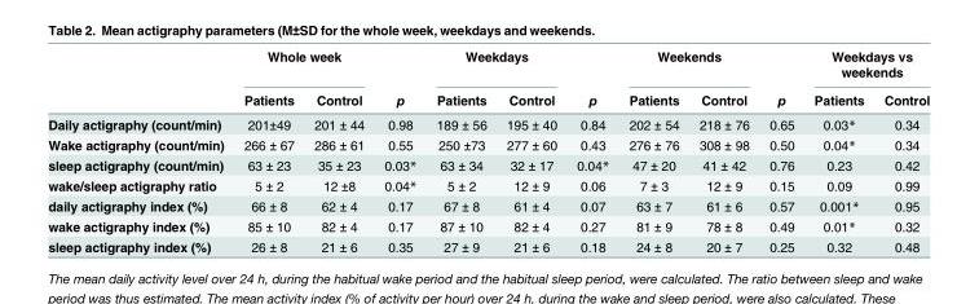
<table><thead><tr><td rowspan="2"></td><td colspan="2">Whole week</td><td rowspan="2">p</td><td colspan="2">Weekdays</td><td rowspan="2">p</td><td colspan="2">Weekends</td><td rowspan="2">p</td><td colspan="2">Weekdays vs weekends</td></tr><tr><td>Patients</td><td>Control</td><td>Patients</td><td>Control</td><td>Patients</td><td>Control</td><td>Patients</td><td>Control</td></tr></thead><tbody><tr><td>Daily actigraphy (count/min)</td><td>201±49</td><td>201 ± 44</td><td>0.98</td><td>189 ± 56</td><td>195 ± 40</td><td>0.84</td><td>202 ± 54</td><td>218 ± 76</td><td>0.65</td><td>0.03*</td><td>0.34</td></tr><tr><td>Wake actigraphy (count/min)</td><td>266 ± 67</td><td>286 ± 61</td><td>0.55</td><td>250 ±73</td><td>277 ± 60</td><td>0.43</td><td>276 ± 76</td><td>308 ± 98</td><td>0.50</td><td>0.04*</td><td>0.34</td></tr><tr><td>sleep actigraphy (count/min)</td><td>63 ± 23</td><td>35 ± 23</td><td>0.03*</td><td>63 ± 34</td><td>32 ± 17</td><td>0.04*</td><td>47 ± 20</td><td>41 ± 42</td><td>0.76</td><td>0.23</td><td>0.42</td></tr><tr><td>wake/sleep actigraphy ratio</td><td>5 ± 2</td><td>12 ±8</td><td>0.04*</td><td>5 ± 2</td><td>12 ± 9</td><td>0.06</td><td>7 ± 3</td><td>12 ± 9</td><td>0.15</td><td>0.09</td><td>0.99</td></tr><tr><td>daily actigraphy index (%)</td><td>66 ± 8</td><td>62 ± 4</td><td>0.17</td><td>67 ± 8</td><td>61 ± 4</td><td>0.07</td><td>63 ± 7</td><td>61 ± 6</td><td>0.57</td><td>0.001*</td><td>0.95</td></tr><tr><td>wake actigraphy index (%)</td><td>85 ± 10</td><td>82 ± 4</td><td>0.17</td><td>87 ± 10</td><td>82 ± 4</td><td>0.27</td><td>81 ± 9</td><td>78 ± 8</td><td>0.49</td><td>0.01*</td><td>0.32</td></tr><tr><td>sleep actigraphy index (%)</td><td>26 ± 8</td><td>21 ± 6</td><td>0.35</td><td>27 ± 9</td><td>21 ± 6</td><td>0.18</td><td>24 ± 8</td><td>20 ± 7</td><td>0.25</td><td>0.32</td><td>0.48</td></tr></tbody></table>